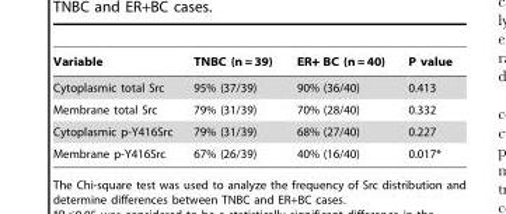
<table><thead><tr><td>Variable</td><td>TNBC (n = 39)</td><td>ER+ BC (n = 40)</td><td>P value</td></tr></thead><tbody><tr><td>Cytoplasmic total Src</td><td>95% (37/39)</td><td>90% (36/40)</td><td>0.413</td></tr><tr><td>Membrane total Src</td><td>79% (31/39)</td><td>70% (28/40)</td><td>0.332</td></tr><tr><td>Cytoplasmic p-Y416Src</td><td>79% (31/39)</td><td>68% (27/40)</td><td>0.227</td></tr><tr><td>Membrane p-Y416Src</td><td>67% (26/39)</td><td>40% (16/40)</td><td>0.017*</td></tr></tbody></table>